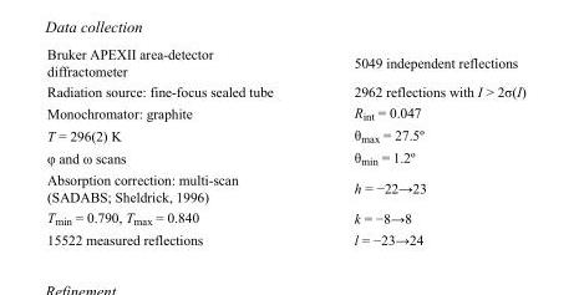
<table><tbody><tr><td>Bruker APEXII area-detector diffractometer</td><td>5049 independent reflections</td></tr><tr><td>Radiation source: fine-focus sealed tube</td><td>2962 reflections with I &gt; 2σ(I)</td></tr><tr><td>Monochromator: graphite</td><td>R<sub>int</sub> = 0.047</td></tr><tr><td>T = 296(2) K</td><td>θ<sub>max</sub> = 27.5º</td></tr><tr><td>φ and ω scans</td><td>θ<sub>min</sub> = 1.2º</td></tr><tr><td>Absorption correction: multi-scan (SADABS; Sheldrick, 1996)</td><td>h = −22→23</td></tr><tr><td>T<sub>min</sub> = 0.790, T<sub>max</sub> = 0.840</td><td>k = −8→8</td></tr><tr><td>15522 measured reflections</td><td>l = −23→24</td></tr></tbody></table>